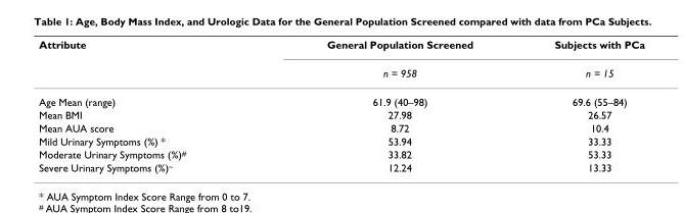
<table><thead><tr><td rowspan="2">Attribute</td><td rowspan="2">General Population Screened n = 958</td><td rowspan="2">Subjects with PCa n = 15</td></tr><tr></tr></thead><tbody><tr><td>Age Mean (range)</td><td>61.9 (40–98)</td><td>69.6 (55–84)</td></tr><tr><td>Mean BMI</td><td>27.98</td><td>26.57</td></tr><tr><td>Mean AUA score</td><td>8.72</td><td>10.4</td></tr><tr><td>Mild Urinary Symptoms (%) *</td><td>53.94</td><td>33.33</td></tr><tr><td>Moderate Urinary Symptoms (%)<sup>#</sup></td><td>33.82</td><td>53.33</td></tr><tr><td>Severe Urinary Symptoms (%)<sup>~</sup></td><td>12.24</td><td>13.33</td></tr></tbody></table>